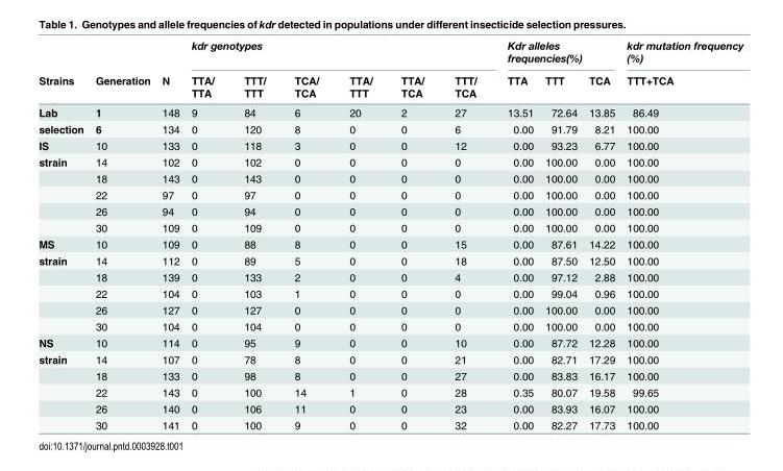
<table><thead><tr><td rowspan="2">Strains</td><td rowspan="2">Generation</td><td rowspan="2">N</td><td colspan="6">kdr genotypes</td><td colspan="3">Kdr alleles frequencies(%)</td><td rowspan="2">kdr mutation frequency (%) TTT+TCA</td></tr><tr><td>TTA/ TTA</td><td>TTT/ TTT</td><td>TCA/ TCA</td><td>TTA/ TTT</td><td>TTA/ TCA</td><td>TTT/ TCA</td><td>TTA</td><td>TTT</td><td>TCA</td></tr></thead><tbody><tr><td>Lab</td><td>1</td><td>148</td><td>9</td><td>84</td><td>6</td><td>20</td><td>2</td><td>27</td><td>13.51</td><td>72.64</td><td>13.85</td><td>86.49</td></tr><tr><td>selection</td><td>6</td><td>134</td><td>0</td><td>120</td><td>8</td><td>0</td><td>0</td><td>6</td><td>0.00</td><td>91.79</td><td>8.21</td><td>100.00</td></tr><tr><td>IS</td><td>10</td><td>133</td><td>0</td><td>118</td><td>3</td><td>0</td><td>0</td><td>12</td><td>0.00</td><td>93.23</td><td>6.77</td><td>100.00</td></tr><tr><td rowspan="5">strain</td><td>14</td><td>102</td><td>0</td><td>102</td><td>0</td><td>0</td><td>0</td><td>0</td><td>0.00</td><td>100.00</td><td>0.00</td><td>100.00</td></tr><tr><td>18</td><td>143</td><td>0</td><td>143</td><td>0</td><td>0</td><td>0</td><td>0</td><td>0.00</td><td>100.00</td><td>0.00</td><td>100.00</td></tr><tr><td>22</td><td>97</td><td>0</td><td>97</td><td>0</td><td>0</td><td>0</td><td>0</td><td>0.00</td><td>100.00</td><td>0.00</td><td>100.00</td></tr><tr><td>26</td><td>94</td><td>0</td><td>94</td><td>0</td><td>0</td><td>0</td><td>0</td><td>0.00</td><td>100.00</td><td>0.00</td><td>100.00</td></tr><tr><td>30</td><td>109</td><td>0</td><td>109</td><td>0</td><td>0</td><td>0</td><td>0</td><td>0.00</td><td>100.00</td><td>0.00</td><td>100.00</td></tr><tr><td>MS</td><td>10</td><td>109</td><td>0</td><td>88</td><td>8</td><td>0</td><td>0</td><td>15</td><td>0.00</td><td>87.61</td><td>14.22</td><td>100.00</td></tr><tr><td rowspan="5">strain</td><td>14</td><td>112</td><td>0</td><td>89</td><td>5</td><td>0</td><td>0</td><td>18</td><td>0.00</td><td>87.50</td><td>12.50</td><td>100.00</td></tr><tr><td>18</td><td>139</td><td>0</td><td>133</td><td>2</td><td>0</td><td>0</td><td>4</td><td>0.00</td><td>97.12</td><td>2.88</td><td>100.00</td></tr><tr><td>22</td><td>104</td><td>0</td><td>103</td><td>1</td><td>0</td><td>0</td><td>0</td><td>0.00</td><td>99.04</td><td>0.96</td><td>100.00</td></tr><tr><td>26</td><td>127</td><td>0</td><td>127</td><td>0</td><td>0</td><td>0</td><td>0</td><td>0.00</td><td>100.00</td><td>0.00</td><td>100.00</td></tr><tr><td>30</td><td>104</td><td>0</td><td>104</td><td>0</td><td>0</td><td>0</td><td>0</td><td>0.00</td><td>100.00</td><td>0.00</td><td>100.00</td></tr><tr><td>NS</td><td>10</td><td>114</td><td>0</td><td>95</td><td>9</td><td>0</td><td>0</td><td>10</td><td>0.00</td><td>87.72</td><td>12.28</td><td>100.00</td></tr><tr><td rowspan="5">strain</td><td>14</td><td>107</td><td>0</td><td>78</td><td>8</td><td>0</td><td>0</td><td>21</td><td>0.00</td><td>82.71</td><td>17.29</td><td>100.00</td></tr><tr><td>18</td><td>133</td><td>0</td><td>98</td><td>8</td><td>0</td><td>0</td><td>27</td><td>0.00</td><td>83.83</td><td>16.17</td><td>100.00</td></tr><tr><td>22</td><td>143</td><td>0</td><td>100</td><td>14</td><td>1</td><td>0</td><td>28</td><td>0.35</td><td>80.07</td><td>19.58</td><td>99.65</td></tr><tr><td>26</td><td>140</td><td>0</td><td>106</td><td>11</td><td>0</td><td>0</td><td>23</td><td>0.00</td><td>83.93</td><td>16.07</td><td>100.00</td></tr><tr><td>30</td><td>141</td><td>0</td><td>100</td><td>9</td><td>0</td><td>0</td><td>32</td><td>0.00</td><td>82.27</td><td>17.73</td><td>100.00</td></tr></tbody></table>